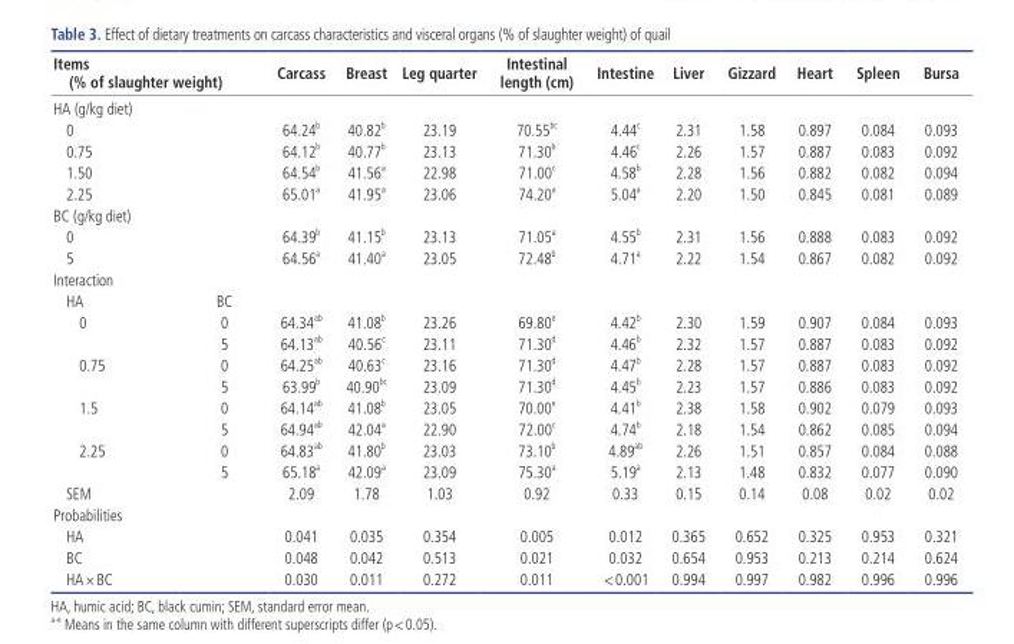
<table><thead><tr><td colspan="2">Items (% of slaughter weight)</td><td>Carcass</td><td>Breast</td><td>Leg quarter</td><td>Intestinal length (cm)</td><td>Intestine</td><td>Liver</td><td>Gizzard</td><td>Heart</td><td>Spleen</td><td>Bursa</td></tr><tr><td colspan="12">HA (g/kg diet)</td></tr><tr><td>0</td><td></td><td>64.24 <sup>b</sup></td><td>40.82 <sup>b</sup></td><td>23.19</td><td>70.55 <sup>bc</sup></td><td>4.44 <sup>c</sup></td><td>2.31</td><td>1.58</td><td>0.897</td><td>0.084</td><td>0.093</td></tr></thead><tbody><tr><td>0.75</td><td></td><td>64.12 <sup>b</sup></td><td>40.77 <sup>b</sup></td><td>23.13</td><td>71.30 <sup>b</sup></td><td>4.46 <sup>c</sup></td><td>2.26</td><td>1.57</td><td>0.887</td><td>0.083</td><td>0.092</td></tr><tr><td>1.50</td><td></td><td>64.54 <sup>b</sup></td><td>41.56 <sup>a</sup></td><td>22.98</td><td>71.00 <sup>c</sup></td><td>4.58 <sup>b</sup></td><td>2.28</td><td>1.56</td><td>0.882</td><td>0.082</td><td>0.094</td></tr><tr><td>2.25</td><td></td><td>65.01 <sup>a</sup></td><td>41.95 <sup>a</sup></td><td>23.06</td><td>74.20 <sup>a</sup></td><td>5.04 <sup>a</sup></td><td>2.20</td><td>1.50</td><td>0.845</td><td>0.081</td><td>0.089</td></tr><tr><td colspan="12">BC (g/kg diet)</td></tr><tr><td>0</td><td></td><td>64.39 <sup>b</sup></td><td>41.15 <sup>b</sup></td><td>23.13</td><td>71.05 <sup>a</sup></td><td>4.55 <sup>b</sup></td><td>2.31</td><td>1.56</td><td>0.888</td><td>0.083</td><td>0.092</td></tr><tr><td>5</td><td></td><td>64.56 <sup>a</sup></td><td>41.40 <sup>a</sup></td><td>23.05</td><td>72.48 <sup>b</sup></td><td>4.71 <sup>a</sup></td><td>2.22</td><td>1.54</td><td>0.867</td><td>0.082</td><td>0.092</td></tr><tr><td colspan="12">Interaction</td></tr><tr><td>HA</td><td>BC</td><td></td><td></td><td></td><td></td><td></td><td></td><td></td><td></td><td></td><td></td></tr><tr><td rowspan="2">0</td><td>0</td><td>64.34 <sup>ab</sup></td><td>41.08 <sup>b</sup></td><td>23.26</td><td>69.80 <sup>e</sup></td><td>4.42 <sup>b</sup></td><td>2.30</td><td>1.59</td><td>0.907</td><td>0.084</td><td>0.093</td></tr><tr><td>5</td><td>64.13 <sup>ab</sup></td><td>40.56 <sup>c</sup></td><td>23.11</td><td>71.30 <sup>d</sup></td><td>4.46 <sup>b</sup></td><td>2.32</td><td>1.57</td><td>0.887</td><td>0.083</td><td>0.092</td></tr><tr><td rowspan="2">0.75</td><td>0</td><td>64.25 <sup>ab</sup></td><td>40.63 <sup>c</sup></td><td>23.16</td><td>71.30 <sup>d</sup></td><td>4.47 <sup>b</sup></td><td>2.28</td><td>1.57</td><td>0.887</td><td>0.083</td><td>0.092</td></tr><tr><td>5</td><td>63.99 <sup>b</sup></td><td>40.90 <sup>bc</sup></td><td>23.09</td><td>71.30 <sup>d</sup></td><td>4.45 <sup>b</sup></td><td>2.23</td><td>1.57</td><td>0.886</td><td>0.083</td><td>0.092</td></tr><tr><td rowspan="2">1.5</td><td>0</td><td>64.14 <sup>ab</sup></td><td>41.08 <sup>b</sup></td><td>23.05</td><td>70.00 <sup>e</sup></td><td>4.41 <sup>b</sup></td><td>2.38</td><td>1.58</td><td>0.902</td><td>0.079</td><td>0.093</td></tr><tr><td>5</td><td>64.94 <sup>ab</sup></td><td>42.04 <sup>a</sup></td><td>22.90</td><td>72.00 <sup>c</sup></td><td>4.74 <sup>b</sup></td><td>2.18</td><td>1.54</td><td>0.862</td><td>0.085</td><td>0.094</td></tr><tr><td rowspan="2">2.25</td><td>0</td><td>64.83 <sup>ab</sup></td><td>41.80 <sup>b</sup></td><td>23.03</td><td>73.10 <sup>b</sup></td><td>4.89 <sup>ab</sup></td><td>2.26</td><td>1.51</td><td>0.857</td><td>0.084</td><td>0.088</td></tr><tr><td>5</td><td>65.18 <sup>a</sup></td><td>42.09 <sup>a</sup></td><td>23.09</td><td>75.30 <sup>a</sup></td><td>5.19 <sup>a</sup></td><td>2.13</td><td>1.48</td><td>0.832</td><td>0.077</td><td>0.090</td></tr><tr><td>SEM</td><td></td><td>2.09</td><td>1.78</td><td>1.03</td><td>0.92</td><td>0.33</td><td>0.15</td><td>0.14</td><td>0.08</td><td>0.02</td><td>0.02</td></tr><tr><td colspan="12">Probabilities</td></tr><tr><td>HA</td><td></td><td>0.041</td><td>0.035</td><td>0.354</td><td>0.005</td><td>0.012</td><td>0.365</td><td>0.652</td><td>0.325</td><td>0.953</td><td>0.321</td></tr><tr><td>BC</td><td></td><td>0.048</td><td>0.042</td><td>0.513</td><td>0.021</td><td>0.032</td><td>0.654</td><td>0.953</td><td>0.213</td><td>0.214</td><td>0.624</td></tr><tr><td>HA×BC</td><td></td><td>0.030</td><td>0.011</td><td>0.272</td><td>0.011</td><td>&lt;0.001</td><td>0.994</td><td>0.997</td><td>0.982</td><td>0.996</td><td>0.996</td></tr></tbody></table>